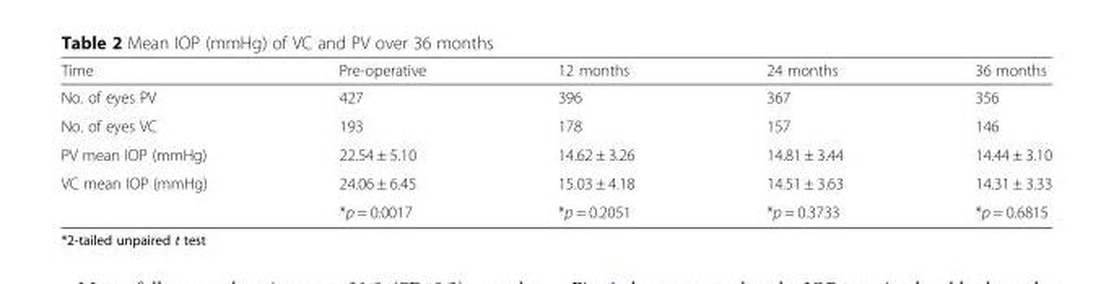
<table><thead><tr><td>Time</td><td>Pre-operative</td><td>12 months</td><td>24 months</td><td>36 months</td></tr></thead><tbody><tr><td>No. of eyes PV</td><td>427</td><td>396</td><td>367</td><td>356</td></tr><tr><td>No. of eyes VC</td><td>193</td><td>178</td><td>157</td><td>146</td></tr><tr><td>PV mean IOP (mmHg)</td><td>22.54 ± 5.10</td><td>14.62 ± 3.26</td><td>14.81 ± 3.44</td><td>14.44 ± 3.10</td></tr><tr><td rowspan="2">VC mean IOP (mmHg)</td><td>24.06 ± 6.45</td><td>15.03 ± 4.18</td><td>14.51 ± 3.63</td><td>14.31 ± 3.33</td></tr><tr><td>*p = 0.0017</td><td>*p = 0.2051</td><td>*p = 0.3733</td><td>*p = 0.6815</td></tr></tbody></table>